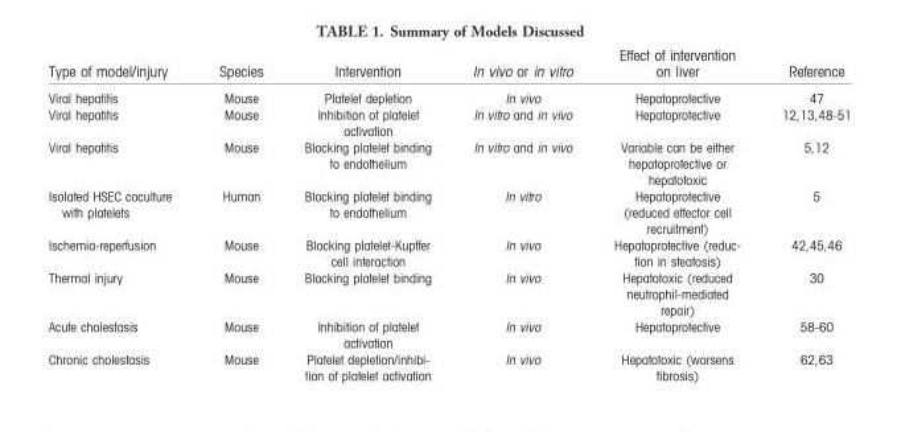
<table><thead><tr><td>Type of model/injury</td><td>Species</td><td>Intervention</td><td>In vivo or in vitro</td><td>Effect of intervention on liver</td><td>Reference</td></tr></thead><tbody><tr><td>Viral hepatitis</td><td>Mouse</td><td>Platelet depletion</td><td>In vivo</td><td>Hepatoprotective</td><td>47</td></tr><tr><td>Viral hepatitis</td><td>Mouse</td><td>Inhibition of platelet activation</td><td>In vitro and in vivo</td><td>Hepatoprotective</td><td>12,13,48-51</td></tr><tr><td>Viral hepatitis</td><td>Mouse</td><td>Blocking platelet binding to endothelium</td><td>In vitro and in vivo</td><td>Variable can be either hepatoprotective or hepatotoxic</td><td>5,12</td></tr><tr><td>Isolated HSEC coculture with platelets</td><td>Human</td><td>Blocking platelet binding to endothelium</td><td>In vitro</td><td>Hepatoprotective (reduced effector cell recruitment)</td><td>5</td></tr><tr><td>Ischemia-reperfusion</td><td>Mouse</td><td>Blocking platelet-Kupffer cell interaction</td><td>In vivo</td><td>Hepatoprotective (reduc- tion in steatosis)</td><td>42,45,46</td></tr><tr><td>Thermal injury</td><td>Mouse</td><td>Blocking platelet binding</td><td>In vivo</td><td>Hepatotoxic (reduced neutrophil-mediated repair)</td><td>30</td></tr><tr><td>Acute cholestasis</td><td>Mouse</td><td>Inhibition of platelet activation</td><td>In vivo</td><td>Hepatoprotective</td><td>58-60</td></tr><tr><td>Chronic cholestasis</td><td>Mouse</td><td>Platelet depletion/inhibi- tion of platelet activation</td><td>In vivo</td><td>Hepatotoxic (worsens fibrosis)</td><td>62,63</td></tr></tbody></table>